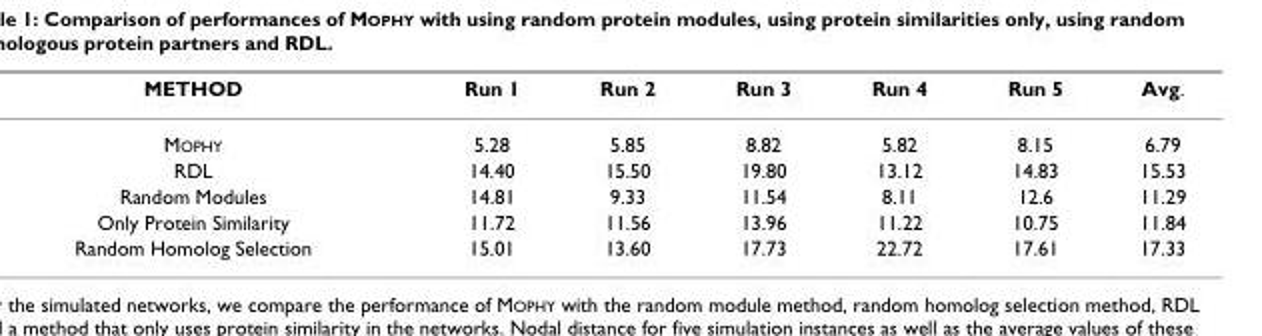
<table><thead><tr><td>METHOD</td><td>Run 1</td><td>Run 2</td><td>Run 3</td><td>Run 4</td><td>Run 5</td><td>Avg.</td></tr></thead><tbody><tr><td>MOPHY</td><td>5.28</td><td>5.85</td><td>8.82</td><td>5.82</td><td>8.15</td><td>6.79</td></tr><tr><td>RDL</td><td>14.40</td><td>15.50</td><td>19.80</td><td>13.12</td><td>14.83</td><td>15.53</td></tr><tr><td>Random Modules</td><td>14.81</td><td>9.33</td><td>11.54</td><td>8.11</td><td>12.6</td><td>11.29</td></tr><tr><td>Only Protein Similarity</td><td>11.72</td><td>11.56</td><td>13.96</td><td>11.22</td><td>10.75</td><td>11.84</td></tr><tr><td>Random Homolog Selection</td><td>15.01</td><td>13.60</td><td>17.73</td><td>22.72</td><td>17.61</td><td>17.33</td></tr></tbody></table>